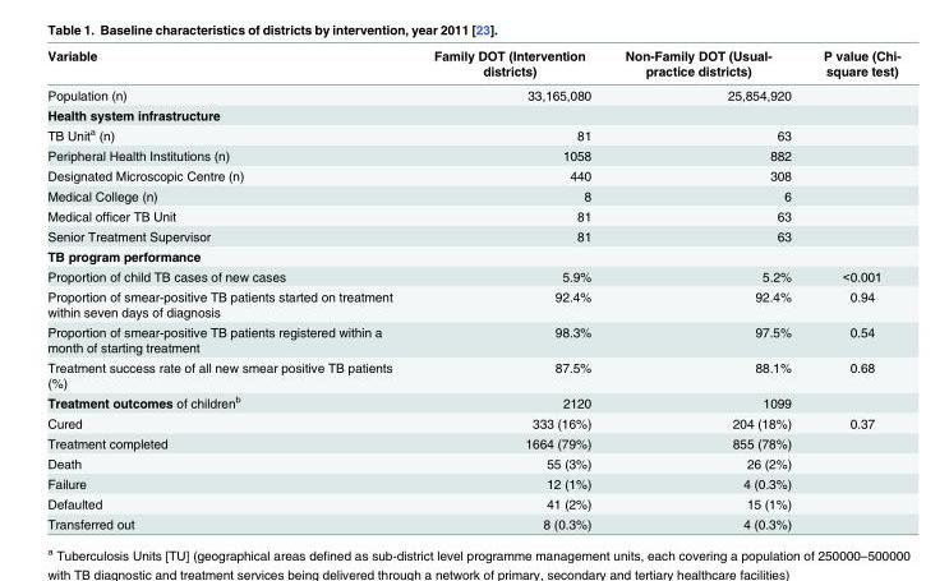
<table><thead><tr><td>Variable</td><td>Family DOT (Intervention districts)</td><td>Non-Family DOT (Usual- practice districts)</td><td>P value (Chi- square test)</td></tr></thead><tbody><tr><td>Population (n)</td><td>33,165,080</td><td>25,854,920</td><td></td></tr><tr><td colspan="4">Health system infrastructure</td></tr><tr><td>TB Unit<sup>a</sup> (n)</td><td>81</td><td>63</td><td></td></tr><tr><td>Peripheral Health Institutions (n)</td><td>1058</td><td>882</td><td></td></tr><tr><td>Designated Microscopic Centre (n)</td><td>440</td><td>308</td><td></td></tr><tr><td>Medical College (n)</td><td>8</td><td>6</td><td></td></tr><tr><td>Medical officer TB Unit</td><td>81</td><td>63</td><td></td></tr><tr><td>Senior Treatment Supervisor</td><td>81</td><td>63</td><td></td></tr><tr><td colspan="4">TB program performance</td></tr><tr><td>Proportion of child TB cases of new cases</td><td>5.9%</td><td>5.2%</td><td>&lt;0.001</td></tr><tr><td>Proportion of smear-positive TB patients started on treatment within seven days of diagnosis</td><td>92.4%</td><td>92.4%</td><td>0.94</td></tr><tr><td>Proportion of smear-positive TB patients registered within a month of starting treatment</td><td>98.3%</td><td>97.5%</td><td>0.54</td></tr><tr><td>Treatment success rate of all new smear positive TB patients (%)</td><td>87.5%</td><td>88.1%</td><td>0.68</td></tr><tr><td>Treatment outcomes of children<sup>b</sup></td><td>2120</td><td>1099</td><td></td></tr><tr><td>Cured</td><td>333 (16%)</td><td>204 (18%)</td><td>0.37</td></tr><tr><td>Treatment completed</td><td>1664 (79%)</td><td>855 (78%)</td><td></td></tr><tr><td>Death</td><td>55 (3%)</td><td>26 (2%)</td><td></td></tr><tr><td>Failure</td><td>12 (1%)</td><td>4 (0.3%)</td><td></td></tr><tr><td>Defaulted</td><td>41 (2%)</td><td>15 (1%)</td><td></td></tr><tr><td>Transferred out</td><td>8 (0.3%)</td><td>4 (0.3%)</td><td></td></tr></tbody></table>